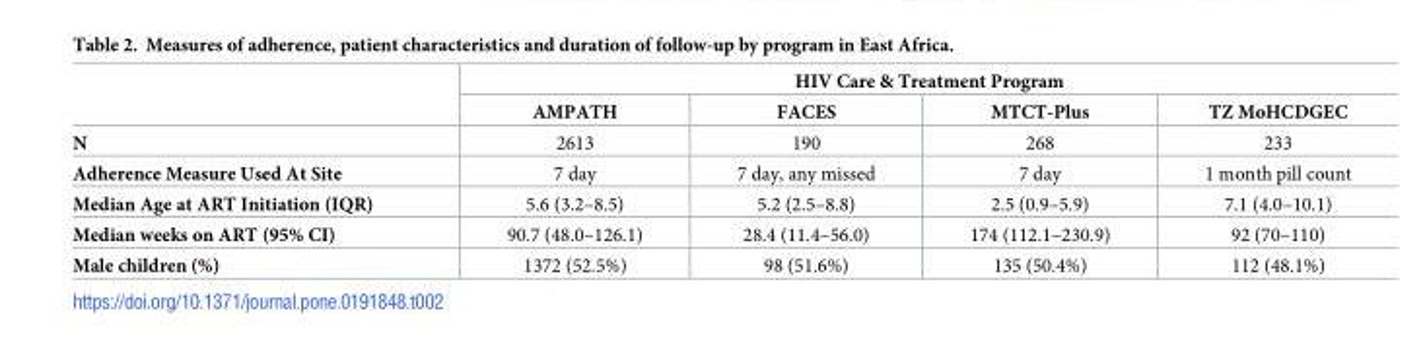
<table><thead><tr><td rowspan="2"></td><td colspan="4">HIV Care &amp; Treatment Program</td></tr><tr><td>AMPATH</td><td>FACES</td><td>MTCT-Plus</td><td>TZ MoHCDGEC</td></tr></thead><tbody><tr><td>N</td><td>2613</td><td>190</td><td>268</td><td>233</td></tr><tr><td>Adherence Measure Used At Site</td><td>7 day</td><td>7 day, any missed</td><td>7 day</td><td>1 month pill count</td></tr><tr><td>Median Age at ART Initiation (IQR)</td><td>5.6 (3.2–8.5)</td><td>5.2 (2.5–8.8)</td><td>2.5 (0.9–5.9)</td><td>7.1 (4.0–10.1)</td></tr><tr><td>Median weeks on ART (95% CI)</td><td>90.7 (48.0–126.1)</td><td>28.4 (11.4–56.0)</td><td>174 (112.1–230.9)</td><td>92 (70–110)</td></tr><tr><td>Male children (%)</td><td>1372 (52.5%)</td><td>98 (51.6%)</td><td>135 (50.4%)</td><td>112 (48.1%)</td></tr></tbody></table>